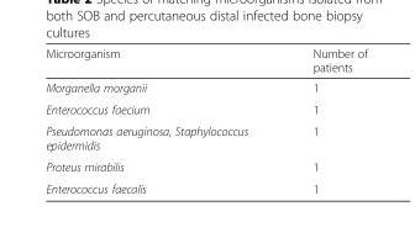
<table><thead><tr><td>Microorganism</td><td>Number of patients</td></tr></thead><tbody><tr><td>Morganella morganii</td><td>1</td></tr><tr><td>Enterococcus faecium</td><td>1</td></tr><tr><td>Pseudomonas aeruginosa, Staphylococcus epidermidis</td><td>1</td></tr><tr><td>Proteus mirabilis</td><td>1</td></tr><tr><td>Enterococcus faecalis</td><td>1</td></tr></tbody></table>